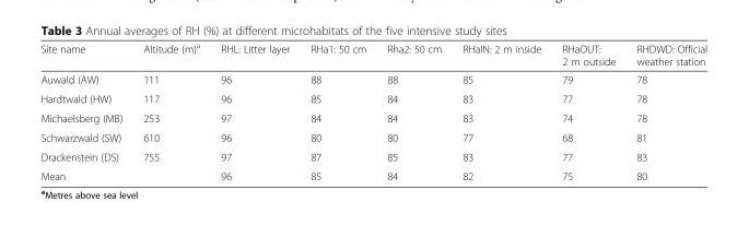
<table><thead><tr><td>Site name</td><td>Altitude (m)<sup>a</sup></td><td>RHL: Litter layer</td><td>RHa1: 50 cm</td><td>Rha2: 50 cm</td><td>RHaIN: 2 m inside</td><td>RHaOUT: 2 m outside</td><td>RHDWD: Official weather station</td></tr></thead><tbody><tr><td>Auwald (AW)</td><td>111</td><td>96</td><td>88</td><td>88</td><td>85</td><td>79</td><td>78</td></tr><tr><td>Hardtwald (HW)</td><td>117</td><td>96</td><td>85</td><td>84</td><td>83</td><td>77</td><td>78</td></tr><tr><td>Michaelsberg (MB)</td><td>253</td><td>97</td><td>84</td><td>84</td><td>83</td><td>74</td><td>78</td></tr><tr><td>Schwarzwald (SW)</td><td>610</td><td>96</td><td>80</td><td>80</td><td>77</td><td>68</td><td>81</td></tr><tr><td>Drackenstein (DS)</td><td>755</td><td>97</td><td>87</td><td>85</td><td>83</td><td>77</td><td>83</td></tr><tr><td>Mean</td><td></td><td>96</td><td>85</td><td>84</td><td>82</td><td>75</td><td>80</td></tr></tbody></table>